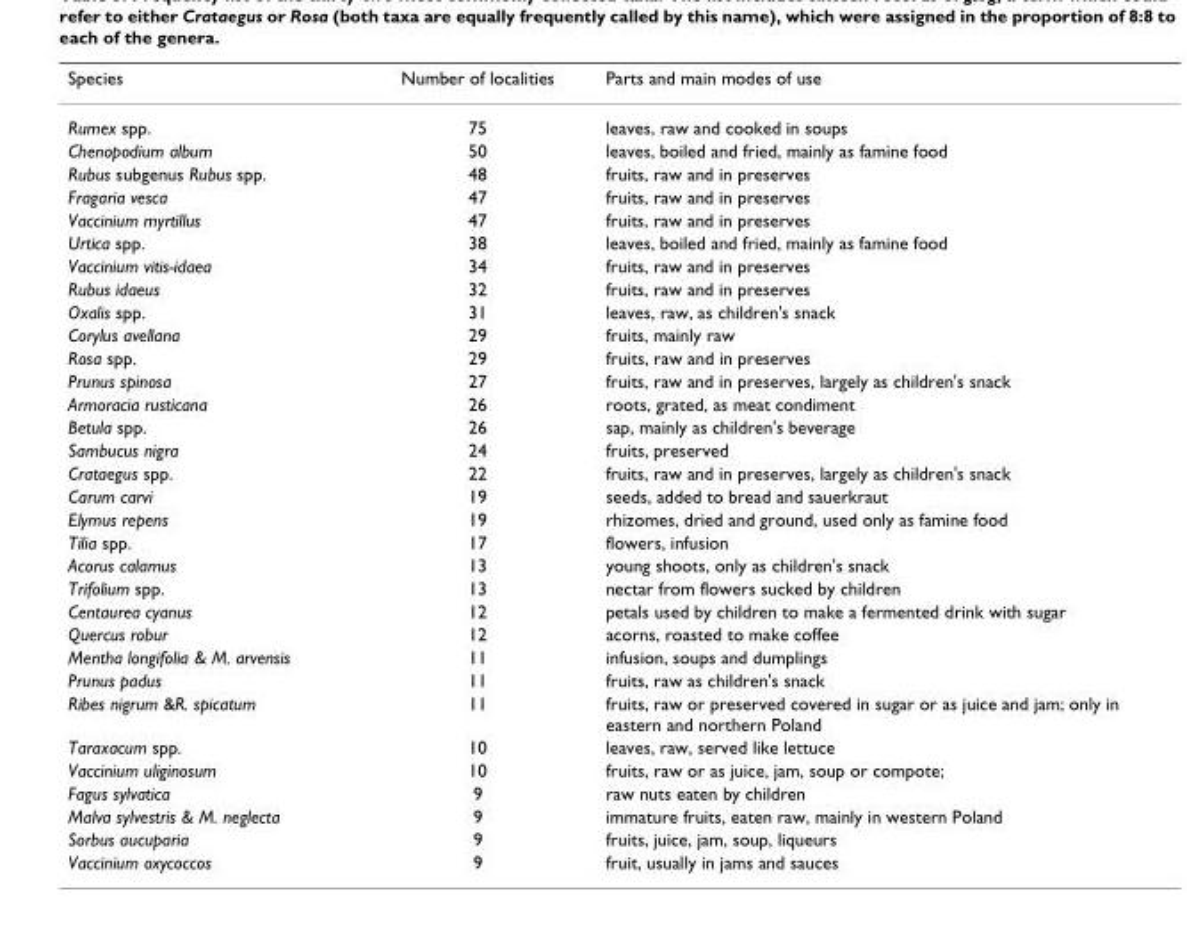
<table><thead><tr><td>Species</td><td>Number of localities</td><td>Parts and main modes of use</td></tr></thead><tbody><tr><td>Rumex spp.</td><td>75</td><td>leaves, raw and cooked in soups</td></tr><tr><td>Chenopodium album</td><td>50</td><td>leaves, boiled and fried, mainly as famine food</td></tr><tr><td>Rubus subgenus Rubus spp.</td><td>48</td><td>fruits, raw and in preserves</td></tr><tr><td>Fragaria vesca</td><td>47</td><td>fruits, raw and in preserves</td></tr><tr><td>Vaccinium myrtillus</td><td>47</td><td>fruits, raw and in preserves</td></tr><tr><td>Urtica spp.</td><td>38</td><td>leaves, boiled and fried, mainly as famine food</td></tr><tr><td>Vaccinium vitis-idaea</td><td>34</td><td>fruits, raw and in preserves</td></tr><tr><td>Rubus idaeus</td><td>32</td><td>fruits, raw and in preserves</td></tr><tr><td>Oxalis spp.</td><td>31</td><td>leaves, raw, as children&#x27;s snack</td></tr><tr><td>Corylus avellana</td><td>29</td><td>fruits, mainly raw</td></tr><tr><td>Rosa spp.</td><td>29</td><td>fruits, raw and in preserves</td></tr><tr><td>Prunus spinosa</td><td>27</td><td>fruits, raw and in preserves, largely as children&#x27;s snack</td></tr><tr><td>Armoracia rusticana</td><td>26</td><td>roots, grated, as meat condiment</td></tr><tr><td>Betula spp.</td><td>26</td><td>sap, mainly as children&#x27;s beverage</td></tr><tr><td>Sambucus nigra</td><td>24</td><td>fruits, preserved</td></tr><tr><td>Crataegus spp.</td><td>22</td><td>fruits, raw and in preserves, largely as children&#x27;s snack</td></tr><tr><td>Carum carvi</td><td>19</td><td>seeds, added to bread and sauerkraut</td></tr><tr><td>Elymus repens</td><td>19</td><td>rhizomes, dried and ground, used only as famine food</td></tr><tr><td>Tilia spp.</td><td>17</td><td>flowers, infusion</td></tr><tr><td>Acorus calamus</td><td>13</td><td>young shoots, only as children&#x27;s snack</td></tr><tr><td>Trifolium spp.</td><td>13</td><td>nectar from flowers sucked by children</td></tr><tr><td>Centaurea cyanus</td><td>12</td><td>petals used by children to make a fermented drink with sugar</td></tr><tr><td>Quercus robur</td><td>12</td><td>acorns, roasted to make coffee</td></tr><tr><td>Mentha longifolia &amp; M. arvensis</td><td>11</td><td>infusion, soups and dumplings</td></tr><tr><td>Prunus padus</td><td>11</td><td>fruits, raw as children&#x27;s snack</td></tr><tr><td>Ribes nigrum &amp;R. spicatum</td><td>11</td><td>fruits, raw or preserved covered in sugar or as juice and jam; only in eastern and northern Poland</td></tr><tr><td>Taraxacum spp.</td><td>10</td><td>leaves, raw, served like lettuce</td></tr><tr><td>Vaccinium uliginosum</td><td>10</td><td>fruits, raw or as juice, jam, soup or compote;</td></tr><tr><td>Fagus sylvatica</td><td>9</td><td>raw nuts eaten by children</td></tr><tr><td>Malva sylvestris &amp; M. neglecta</td><td>9</td><td>immature fruits, eaten raw, mainly in western Poland</td></tr><tr><td>Sorbus aucuparia</td><td>9</td><td>fruits, juice, jam, soup, liqueurs</td></tr><tr><td>Vaccinium oxycoccos</td><td>9</td><td>fruit, usually in jams and sauces</td></tr></tbody></table>